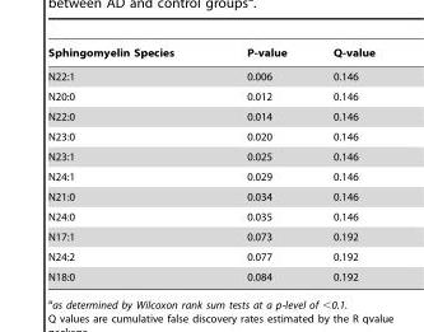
<table><thead><tr><td>Sphingomyelin Species</td><td>P-value</td><td>Q-value</td></tr></thead><tbody><tr><td>N22:1</td><td>0.006</td><td>0.146</td></tr><tr><td>N20:0</td><td>0.012</td><td>0.146</td></tr><tr><td>N22:0</td><td>0.014</td><td>0.146</td></tr><tr><td>N23:0</td><td>0.020</td><td>0.146</td></tr><tr><td>N23:1</td><td>0.025</td><td>0.146</td></tr><tr><td>N24:1</td><td>0.029</td><td>0.146</td></tr><tr><td>N21:0</td><td>0.034</td><td>0.146</td></tr><tr><td>N24:0</td><td>0.035</td><td>0.146</td></tr><tr><td>N17:1</td><td>0.073</td><td>0.192</td></tr><tr><td>N24:2</td><td>0.077</td><td>0.192</td></tr><tr><td>N18:0</td><td>0.084</td><td>0.192</td></tr></tbody></table>